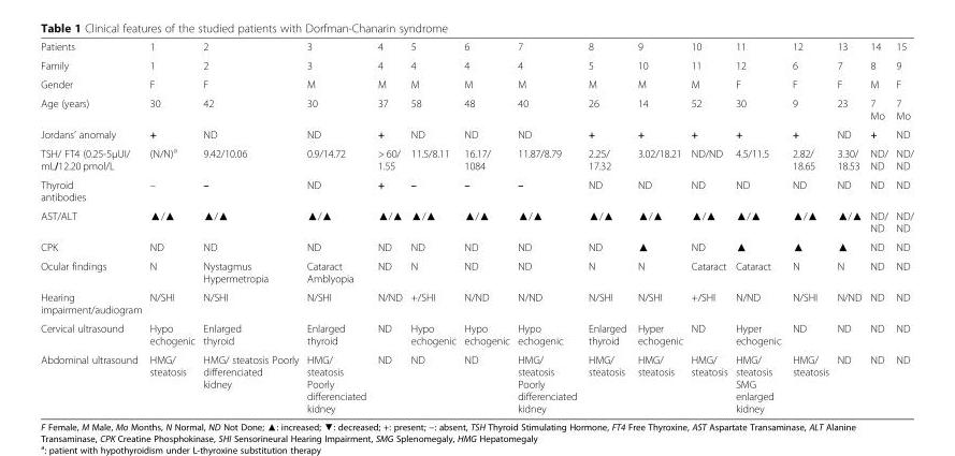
<table><tbody><tr><td>Patients</td><td>1</td><td>2</td><td>3</td><td>4</td><td>5</td><td>6</td><td>7</td><td>8</td><td>9</td><td>10</td><td>11</td><td>12</td><td>13</td><td>14</td><td>15</td></tr><tr><td>Family</td><td>1</td><td>2</td><td>3</td><td>4</td><td>4</td><td>4</td><td>4</td><td>5</td><td>10</td><td>11</td><td>12</td><td>6</td><td>7</td><td>8</td><td>9</td></tr><tr><td>Gender</td><td>F</td><td>F</td><td>M</td><td>M</td><td>M</td><td>M</td><td>M</td><td>M</td><td>M</td><td>M</td><td>F</td><td>F</td><td>F</td><td>M</td><td>F</td></tr><tr><td>Age (years)</td><td>30</td><td>42</td><td>30</td><td>37</td><td>58</td><td>48</td><td>40</td><td>26</td><td>14</td><td>52</td><td>30</td><td>9</td><td>23</td><td>7 Mo</td><td>7 Mo</td></tr><tr><td>Jordans’ anomaly</td><td>+</td><td>ND</td><td>ND</td><td>+</td><td>ND</td><td>ND</td><td>ND</td><td>+</td><td>+</td><td>+</td><td>+</td><td>+</td><td>ND</td><td>+</td><td>ND</td></tr><tr><td>TSH/ FT4 (0.25-5μUI/ mL/12.20 pmol/L</td><td>(N/N)<sup>a</sup></td><td>9.42/10.06</td><td>0.9/14.72</td><td>&gt; 60/ 1.55</td><td>11.5/8.11</td><td>16.17/ 1084</td><td>11.87/8.79</td><td>2.25/ 17.32</td><td>3.02/18.21</td><td>ND/ND</td><td>4.5/11.5</td><td>2.82/ 18.65</td><td>3.30/ 18.53</td><td>ND/ ND</td><td>ND/ ND</td></tr><tr><td>Thyroid antibodies</td><td>–</td><td>–</td><td>ND</td><td>+</td><td>–</td><td>–</td><td>–</td><td>ND</td><td>ND</td><td>ND</td><td>ND</td><td>ND</td><td>ND</td><td>ND</td><td>ND</td></tr><tr><td>AST/ALT</td><td>▲/▲</td><td>▲/▲</td><td>▲/▲</td><td>▲/▲</td><td>▲/▲</td><td>▲/▲</td><td>▲/▲</td><td>▲/▲</td><td>▲/▲</td><td>▲/▲</td><td>▲/▲</td><td>▲/▲</td><td>▲/▲</td><td>ND/ ND</td><td>ND/ ND</td></tr><tr><td>CPK</td><td>ND</td><td>ND</td><td>ND</td><td>ND</td><td>ND</td><td>ND</td><td>ND</td><td>ND</td><td>▲</td><td>ND</td><td>▲</td><td>▲</td><td>▲</td><td>ND</td><td>ND</td></tr><tr><td>Ocular findings</td><td>N</td><td>Nystagmus Hypermetropia</td><td>Cataract Amblyopia</td><td>ND</td><td>N</td><td>ND</td><td>ND</td><td>N</td><td>N</td><td>Cataract</td><td>Cataract</td><td>N</td><td>N</td><td>ND</td><td>ND</td></tr><tr><td>Hearing impairment/audiogram</td><td>N/SHI</td><td>N/SHI</td><td>N/SHI</td><td>N/ND</td><td>+/SHI</td><td>N/ND</td><td>N/ND</td><td>N/SHI</td><td>N/SHI</td><td>+/SHI</td><td>N/ND</td><td>N/SHI</td><td>N/ND</td><td>ND</td><td>ND</td></tr><tr><td>Cervical ultrasound</td><td>Hypo echogenic</td><td>Enlarged thyroid</td><td>Enlarged thyroid</td><td>ND</td><td>Hypo echogenic</td><td>Hypo echogenic</td><td>Hypo echogenic</td><td>Enlarged thyroid</td><td>Hyper echogenic</td><td>ND</td><td>Hyper echogenic</td><td>ND</td><td>ND</td><td>ND</td><td>ND</td></tr><tr><td>Abdominal ultrasound</td><td>HMG/ steatosis</td><td>HMG/ steatosis Poorly differenciated kidney</td><td>HMG/ steatosis Poorly differenciated kidney</td><td>ND</td><td>ND</td><td>ND</td><td>HMG/ steatosis Poorly differenciated kidney</td><td>HMG/ steatosis</td><td>HMG/ steatosis</td><td>HMG/ steatosis</td><td>HMG/ steatosis SMG enlarged kidney</td><td>HMG/ steatosis</td><td>ND</td><td>ND</td><td>ND</td></tr></tbody></table>